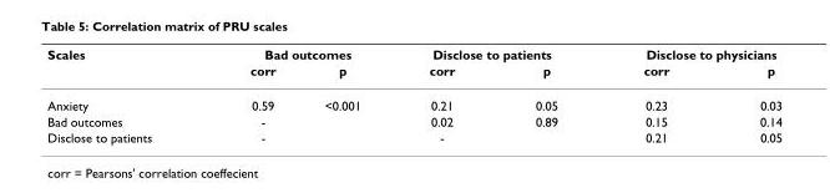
<table><thead><tr><td rowspan="2">Scales</td><td colspan="2">Bad outcomes</td><td colspan="2">Disclose to patients</td><td colspan="2">Disclose to physicians</td></tr><tr><td>corr</td><td>p</td><td>corr</td><td>p</td><td>corr</td><td>p</td></tr></thead><tbody><tr><td>Anxiety</td><td>0.59</td><td>&lt;0.001</td><td>0.21</td><td>0.05</td><td>0.23</td><td>0.03</td></tr><tr><td>Bad outcomes</td><td>-</td><td></td><td>0.02</td><td>0.89</td><td>0.15</td><td>0.14</td></tr><tr><td>Disclose to patients</td><td>-</td><td></td><td>-</td><td></td><td>0.21</td><td>0.05</td></tr></tbody></table>